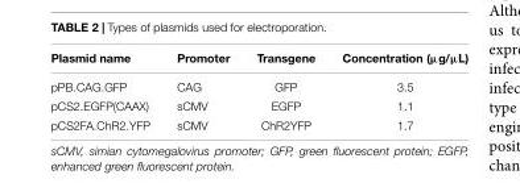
<table><thead><tr><td>Plasmid name</td><td>Promoter</td><td>Transgene</td><td>Concentration (µg/µL)</td></tr></thead><tbody><tr><td>pPB.CAG.GFP</td><td>CAG</td><td>GFP</td><td>3.5</td></tr><tr><td>pCS2.EGFP(CAAX)</td><td>sCMV</td><td>EGFP</td><td>1.1</td></tr><tr><td>pCS2FA.ChR2.YFP</td><td>sCMV</td><td>ChR2YFP</td><td>1.7</td></tr></tbody></table>